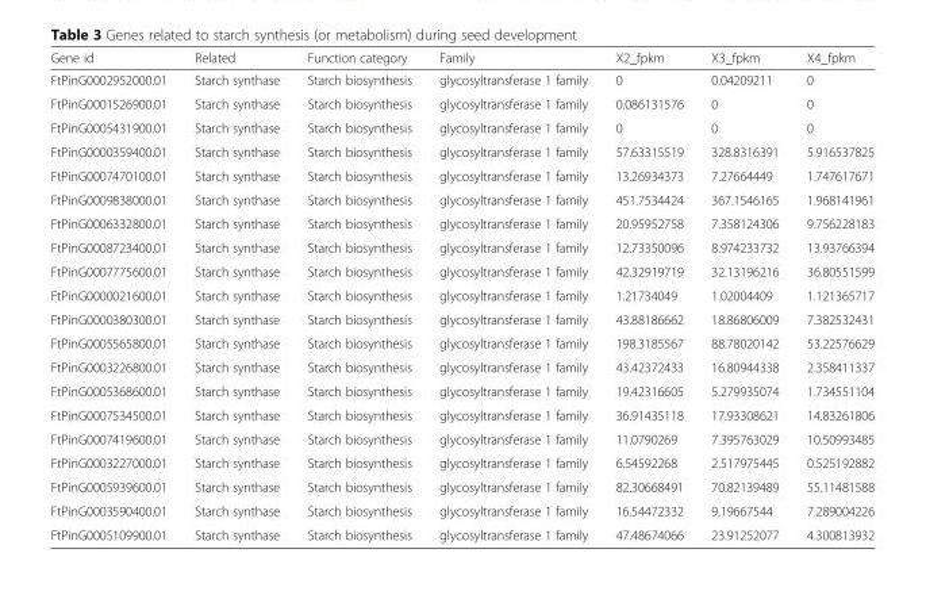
<table><thead><tr><td>Gene id</td><td>Related</td><td>Function category</td><td>Family</td><td>X2_fpkm</td><td>X3_fpkm</td><td>X4_fpkm</td></tr></thead><tbody><tr><td>FtPinG0002952000.01</td><td>Starch synthase</td><td>Starch biosynthesis</td><td>glycosyltransferase 1 family</td><td>0</td><td>0.04209211</td><td>0</td></tr><tr><td>FtPinG0001526900.01</td><td>Starch synthase</td><td>Starch biosynthesis</td><td>glycosyltransferase 1 family</td><td>0.086131576</td><td>0</td><td>0</td></tr><tr><td>FtPinG0005431900.01</td><td>Starch synthase</td><td>Starch biosynthesis</td><td>glycosyltransferase 1 family</td><td>0</td><td>0</td><td>0</td></tr><tr><td>FtPinG0000359400.01</td><td>Starch synthase</td><td>Starch biosynthesis</td><td>glycosyltransferase 1 family</td><td>57.63315519</td><td>328.8316391</td><td>5.916537825</td></tr><tr><td>FtPinG0007470100.01</td><td>Starch synthase</td><td>Starch biosynthesis</td><td>glycosyltransferase 1 family</td><td>13.26934373</td><td>7.27664449</td><td>1.747617671</td></tr><tr><td>FtPinG0009838000.01</td><td>Starch synthase</td><td>Starch biosynthesis</td><td>glycosyltransferase 1 family</td><td>451.7534424</td><td>367.1546165</td><td>1.968141961</td></tr><tr><td>FtPinG0006332800.01</td><td>Starch synthase</td><td>Starch biosynthesis</td><td>glycosyltransferase 1 family</td><td>20.95952758</td><td>7.358124306</td><td>9.756228183</td></tr><tr><td>FtPinG0008723400.01</td><td>Starch synthase</td><td>Starch biosynthesis</td><td>glycosyltransferase 1 family</td><td>12.73350096</td><td>8.974233732</td><td>13.93766394</td></tr><tr><td>FtPinG0007775600.01</td><td>Starch synthase</td><td>Starch biosynthesis</td><td>glycosyltransferase 1 family</td><td>42.32919719</td><td>32.13196216</td><td>36.80551599</td></tr><tr><td>FtPinG0000021600.01</td><td>Starch synthase</td><td>Starch biosynthesis</td><td>glycosyltransferase 1 family</td><td>1.21734049</td><td>1.02004409</td><td>1.121365717</td></tr><tr><td>FtPinG0000380300.01</td><td>Starch synthase</td><td>Starch biosynthesis</td><td>glycosyltransferase 1 family</td><td>43.88186662</td><td>18.86806009</td><td>7.382532431</td></tr><tr><td>FtPinG0005565800.01</td><td>Starch synthase</td><td>Starch biosynthesis</td><td>glycosyltransferase 1 family</td><td>198.3185567</td><td>88.78020142</td><td>53.22576629</td></tr><tr><td>FtPinG0003226800.01</td><td>Starch synthase</td><td>Starch biosynthesis</td><td>glycosyltransferase 1 family</td><td>43.42372433</td><td>16.80944338</td><td>2.358411337</td></tr><tr><td>FtPinG0005368600.01</td><td>Starch synthase</td><td>Starch biosynthesis</td><td>glycosyltransferase 1 family</td><td>19.42316605</td><td>5.279935074</td><td>1.734551104</td></tr><tr><td>FtPinG0007534500.01</td><td>Starch synthase</td><td>Starch biosynthesis</td><td>glycosyltransferase 1 family</td><td>36.91435118</td><td>17.93308621</td><td>14.83261806</td></tr><tr><td>FtPinG0007419600.01</td><td>Starch synthase</td><td>Starch biosynthesis</td><td>glycosyltransferase 1 family</td><td>11.0790269</td><td>7.395763029</td><td>10.50993485</td></tr><tr><td>FtPinG0003227000.01</td><td>Starch synthase</td><td>Starch biosynthesis</td><td>glycosyltransferase 1 family</td><td>6.54592268</td><td>2.517975445</td><td>0.525192882</td></tr><tr><td>FtPinG0005939600.01</td><td>Starch synthase</td><td>Starch biosynthesis</td><td>glycosyltransferase 1 family</td><td>82.30668491</td><td>70.82139489</td><td>55.11481588</td></tr><tr><td>FtPinG0003590400.01</td><td>Starch synthase</td><td>Starch biosynthesis</td><td>glycosyltransferase 1 family</td><td>16.54472332</td><td>9.19667544</td><td>7.289004226</td></tr><tr><td>FtPinG0005109900.01</td><td>Starch synthase</td><td>Starch biosynthesis</td><td>glycosyltransferase 1 family</td><td>47.48674066</td><td>23.91252077</td><td>4.300813932</td></tr></tbody></table>